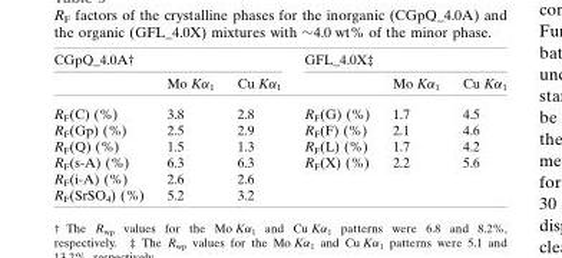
<table><thead><tr><td colspan="3">CGpQ_4.0A†</td><td colspan="3">GFL_4.0X‡</td></tr><tr><td></td><td>Mo Kα<sub>1</sub></td><td>Cu Kα<sub>1</sub></td><td></td><td>Mo Kα<sub>1</sub></td><td>Cu Kα<sub>1</sub></td></tr></thead><tbody><tr><td>R<sub>F</sub>(C) (%)</td><td>3.8</td><td>2.8</td><td>R<sub>F</sub>(G) (%)</td><td>1.7</td><td>4.5</td></tr><tr><td>R<sub>F</sub>(Gp) (%)</td><td>2.5</td><td>2.9</td><td>R<sub>F</sub>(F) (%)</td><td>2.1</td><td>4.6</td></tr><tr><td>R<sub>F</sub>(Q) (%)</td><td>1.5</td><td>1.3</td><td>R<sub>F</sub>(L) (%)</td><td>1.7</td><td>4.2</td></tr><tr><td>R<sub>F</sub>(s-A) (%)</td><td>6.3</td><td>6.3</td><td>R<sub>F</sub>(X) (%)</td><td>2.2</td><td>5.6</td></tr><tr><td>R<sub>F</sub>(i-A) (%)</td><td>2.6</td><td>2.6</td><td></td><td></td><td></td></tr><tr><td>R<sub>F</sub>(SrSO<sub>4</sub>) (%)</td><td>5.2</td><td>3.2</td><td></td><td></td><td></td></tr></tbody></table>